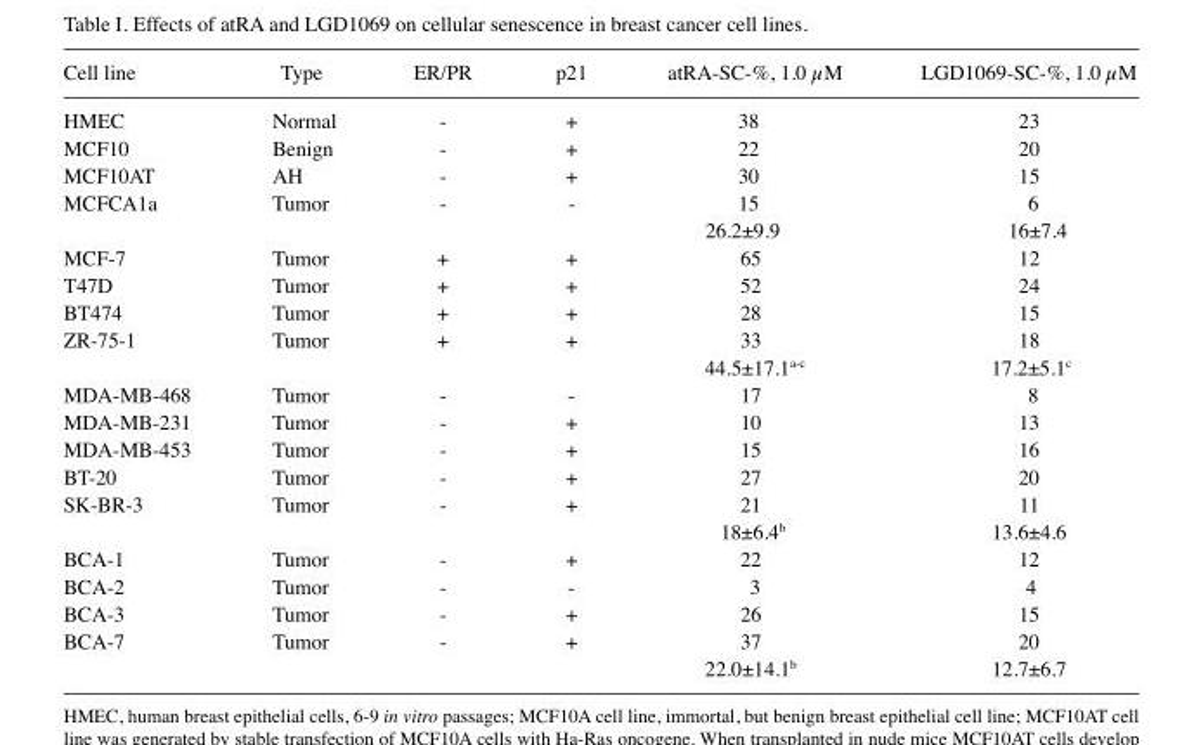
<table><thead><tr><td>Cell line</td><td>Type</td><td>ER/PR</td><td>p21</td><td>atRA-SC-%, 1.0 µM</td><td>LGD1069-SC-%, 1.0 µM</td></tr></thead><tbody><tr><td>HMEC</td><td>Normal</td><td>-</td><td>+</td><td>38</td><td>23</td></tr><tr><td>MCF10</td><td>Benign</td><td>-</td><td>+</td><td>22</td><td>20</td></tr><tr><td>MCF10AT</td><td>AH</td><td>-</td><td>+</td><td>30</td><td>15</td></tr><tr><td rowspan="2">MCFCA1a</td><td>Tumor</td><td>-</td><td>-</td><td>15</td><td>6</td></tr><tr><td></td><td></td><td></td><td>26.2±9.9</td><td>16±7.4</td></tr><tr><td>MCF-7</td><td>Tumor</td><td>+</td><td>+</td><td>65</td><td>12</td></tr><tr><td>T47D</td><td>Tumor</td><td>+</td><td>+</td><td>52</td><td>24</td></tr><tr><td>BT474</td><td>Tumor</td><td>+</td><td>+</td><td>28</td><td>15</td></tr><tr><td rowspan="2">ZR-75-1</td><td>Tumor</td><td>+</td><td>+</td><td>33</td><td>18</td></tr><tr><td></td><td></td><td></td><td>44.5±17.1<sup>a</sup>-<sup>c</sup></td><td>17.2±5.1<sup>c</sup></td></tr><tr><td>MDA-MB-468</td><td>Tumor</td><td>-</td><td>-</td><td>17</td><td>8</td></tr><tr><td>MDA-MB-231</td><td>Tumor</td><td>-</td><td>+</td><td>10</td><td>13</td></tr><tr><td>MDA-MB-453</td><td>Tumor</td><td>-</td><td>+</td><td>15</td><td>16</td></tr><tr><td>BT-20</td><td>Tumor</td><td>-</td><td>+</td><td>27</td><td>20</td></tr><tr><td rowspan="2">Sk-BR-3</td><td>Tumor</td><td>-</td><td>+</td><td>21</td><td>11</td></tr><tr><td></td><td></td><td></td><td>18±6.4<sup>b</sup></td><td>13.6±4.6</td></tr><tr><td>BCA-1</td><td>Tumor</td><td>-</td><td>+</td><td>22</td><td>12</td></tr><tr><td>BCA-2</td><td>Tumor</td><td>-</td><td>-</td><td>3</td><td>4</td></tr><tr><td>BCA-3</td><td>Tumor</td><td>-</td><td>+</td><td>26</td><td>15</td></tr><tr><td rowspan="2">BCA-7</td><td>Tumor</td><td>-</td><td>+</td><td>37</td><td>20</td></tr><tr><td></td><td></td><td></td><td>22.0±14.1<sup>b</sup></td><td>12.7±6.7</td></tr></tbody></table>